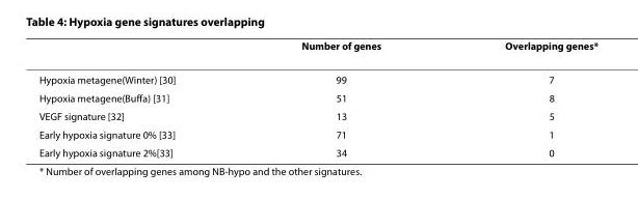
<table><thead><tr><td></td><td>Number of genes</td><td>Overlapping genes*</td></tr></thead><tbody><tr><td>Hypoxia metagene(Winter) [30]</td><td>99</td><td>7</td></tr><tr><td>Hypoxia metagene(Buffa) [31]</td><td>51</td><td>8</td></tr><tr><td>VEGF signature [32]</td><td>13</td><td>5</td></tr><tr><td>Early hypoxia signature 0% [33]</td><td>71</td><td>1</td></tr><tr><td>Early hypoxia signature 2%[33]</td><td>34</td><td>0</td></tr></tbody></table>